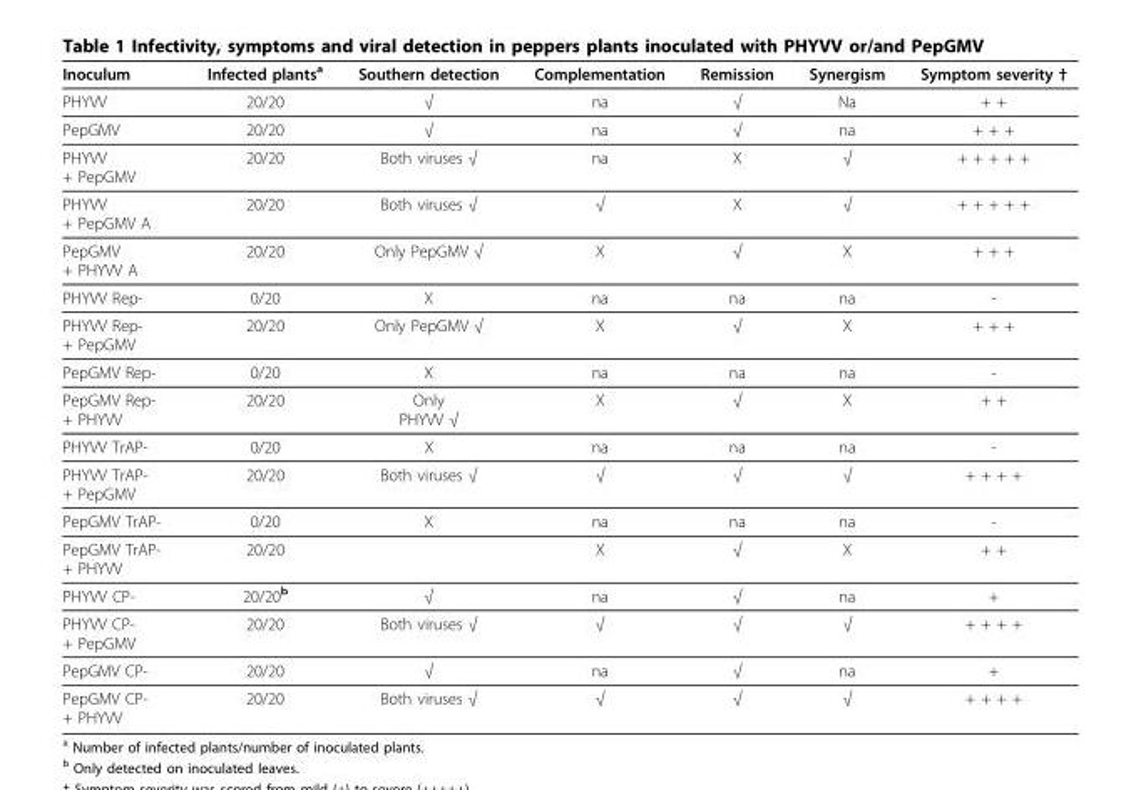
<table><thead><tr><td>Inoculum</td><td>Infected plants<sup>a</sup></td><td>Southern detection</td><td>Complementation</td><td>Remission</td><td>Synergism</td><td>Symptom severity †</td></tr></thead><tbody><tr><td>PHYVV</td><td>20/20</td><td>√</td><td>na</td><td>√</td><td>Na</td><td>+ +</td></tr><tr><td>PepGMV</td><td>20/20</td><td>√</td><td>na</td><td>√</td><td>na</td><td>+ + +</td></tr><tr><td>PHYVV + PepGMV</td><td>20/20</td><td>Both viruses √</td><td>na</td><td>X</td><td>√</td><td>+ + + + +</td></tr><tr><td>PHYVV + PepGMV A</td><td>20/20</td><td>Both viruses √</td><td>√</td><td>X</td><td>√</td><td>+ + + + +</td></tr><tr><td>PepGMV + PHYVV A</td><td>20/20</td><td>Only PepGMV √</td><td>X</td><td>√</td><td>X</td><td>+ + +</td></tr><tr><td>PHYVV Rep-</td><td>0/20</td><td>X</td><td>na</td><td>na</td><td>na</td><td>-</td></tr><tr><td>PHYVV Rep- + PepGMV</td><td>20/20</td><td>Only PepGMV √</td><td>X</td><td>√</td><td>X</td><td>+ + +</td></tr><tr><td>PepGMV Rep-</td><td>0/20</td><td>X</td><td>na</td><td>na</td><td>na</td><td>-</td></tr><tr><td>PepGMV Rep- + PHYVV</td><td>20/20</td><td>Only PHYVV √</td><td>X</td><td>√</td><td>X</td><td>+ +</td></tr><tr><td>PHYVV TrAP-</td><td>0/20</td><td>X</td><td>na</td><td>na</td><td>na</td><td>-</td></tr><tr><td>PHYVV TrAP- + PepGMV</td><td>20/20</td><td>Both viruses √</td><td>√</td><td>√</td><td>√</td><td>+ + + +</td></tr><tr><td>PepGMV TrAP-</td><td>0/20</td><td>X</td><td>na</td><td>na</td><td>na</td><td>-</td></tr><tr><td>PepGMV TrAP- + PHYVV</td><td>20/20</td><td></td><td>X</td><td>√</td><td>X</td><td>+ +</td></tr><tr><td>PHYVV CP-</td><td>20/20<sup>b</sup></td><td>√</td><td>na</td><td>√</td><td>na</td><td>+</td></tr><tr><td>PHYVV CP- + PepGMV</td><td>20/20</td><td>Both viruses √</td><td>√</td><td>√</td><td>√</td><td>+ + + +</td></tr><tr><td>PepGMV CP-</td><td>20/20</td><td>√</td><td>na</td><td>√</td><td>na</td><td>+</td></tr><tr><td>PepGMV CP- + PHYVV</td><td>20/20</td><td>Both viruses √</td><td>√</td><td>√</td><td>√</td><td>+ + + +</td></tr></tbody></table>